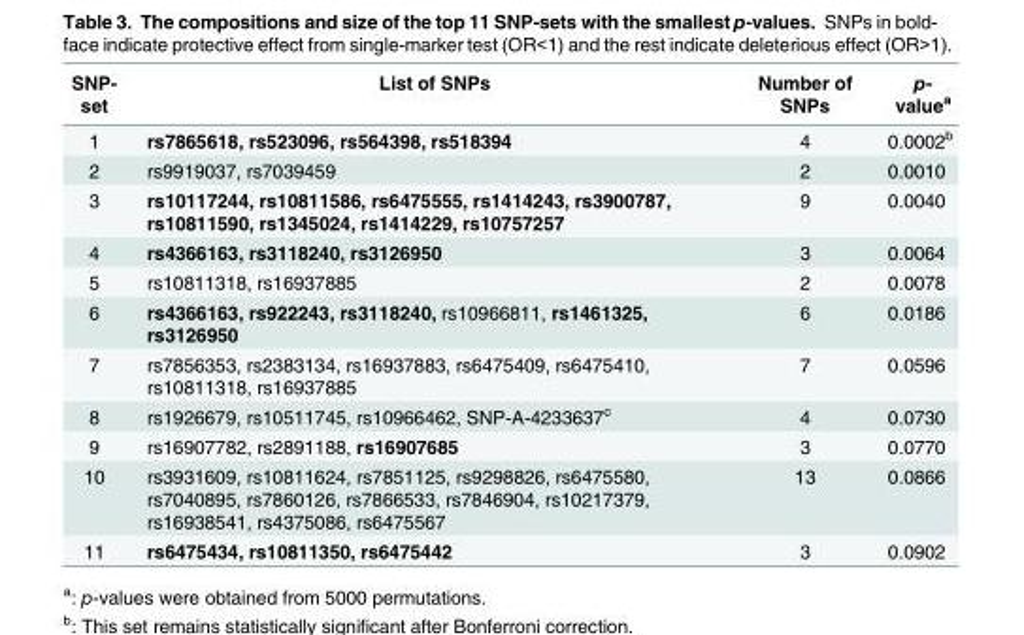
<table><thead><tr><td>SNP- set</td><td>List of SNPs</td><td>Number of SNPs</td><td>p- value<sup>a</sup></td></tr></thead><tbody><tr><td>1</td><td>rs7865618, rs523096, rs564398, rs518394</td><td>4</td><td>0.0002<sup>b</sup></td></tr><tr><td>2</td><td>rs9919037, rs7039459</td><td>2</td><td>0.0010</td></tr><tr><td>3</td><td>rs10117244, rs10811586, rs6475555, rs1414243, rs3900787, rs10811590, rs1345024, rs1414229, rs10757257</td><td>9</td><td>0.0040</td></tr><tr><td>4</td><td>rs4366163, rs3118240, rs3126950</td><td>3</td><td>0.0064</td></tr><tr><td>5</td><td>rs10811318, rs16937885</td><td>2</td><td>0.0078</td></tr><tr><td>6</td><td>rs4366163, rs922243, rs3118240, rs10966811, rs1461325, rs3126950</td><td>6</td><td>0.0186</td></tr><tr><td>7</td><td>rs7856353, rs2383134, rs16937883, rs6475409, rs6475410, rs10811318, rs16937885</td><td>7</td><td>0.0596</td></tr><tr><td>8</td><td>rs1926679, rs10511745, rs10966462, SNP-A-4233637<sup>c</sup></td><td>4</td><td>0.0730</td></tr><tr><td>9</td><td>rs16907782, rs2891188, rs16907685</td><td>3</td><td>0.0770</td></tr><tr><td>10</td><td>rs3931609, rs10811624, rs7851125, rs9298826, rs6475580, rs7040895, rs7860126, rs7866533, rs7846904, rs10217379, rs16938541, rs4375086, rs6475567</td><td>13</td><td>0.0866</td></tr><tr><td>11</td><td>rs6475434, rs10811350, rs6475442</td><td>3</td><td>0.0902</td></tr></tbody></table>